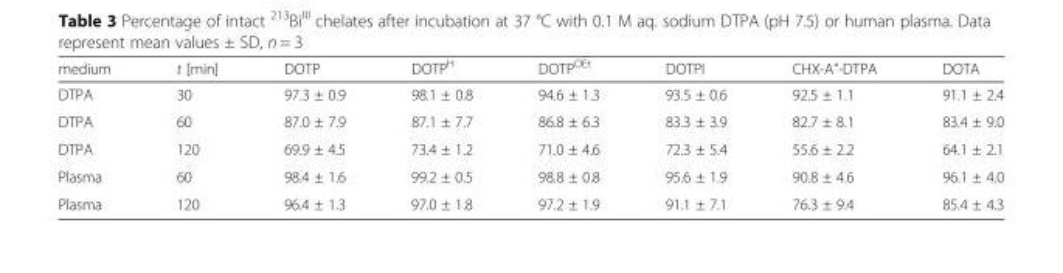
<table><thead><tr><td>medium</td><td>t [min]</td><td>DOTP</td><td>DOTP<sup>H</sup></td><td>DOTP<sup>OEt</sup></td><td>DOTPI</td><td>CHX-A&quot;-DTPA</td><td>DOTA</td></tr></thead><tbody><tr><td>DTPA</td><td>30</td><td>97.3 ± 0.9</td><td>98.1 ± 0.8</td><td>94.6 ± 1.3</td><td>93.5 ± 0.6</td><td>92.5 ± 1.1</td><td>91.1 ± 2.4</td></tr><tr><td>DTPA</td><td>60</td><td>87.0 ± 7.9</td><td>87.1 ± 7.7</td><td>86.8 ± 6.3</td><td>83.3 ± 3.9</td><td>82.7 ± 8.1</td><td>83.4 ± 9.0</td></tr><tr><td>DTPA</td><td>120</td><td>69.9 ± 4.5</td><td>73.4 ± 1.2</td><td>71.0 ± 4.6</td><td>72.3 ± 5.4</td><td>55.6 ± 2.2</td><td>64.1 ± 2.1</td></tr><tr><td>Plasma</td><td>60</td><td>98.4 ± 1.6</td><td>99.2 ± 0.5</td><td>98.8 ± 0.8</td><td>95.6 ± 1.9</td><td>90.8 ± 4.6</td><td>96.1 ± 4.0</td></tr><tr><td>Plasma</td><td>120</td><td>96.4 ± 1.3</td><td>97.0 ± 1.8</td><td>97.2 ± 1.9</td><td>91.1 ± 7.1</td><td>76.3 ± 9.4</td><td>85.4 ± 4.3</td></tr></tbody></table>